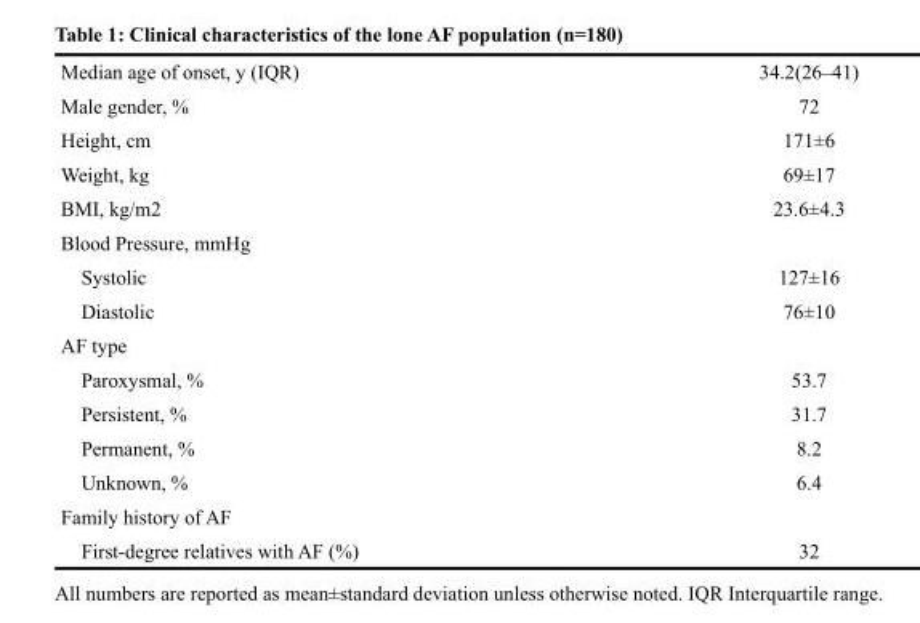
<table><tbody><tr><td>Median age of onset, y (IQR)</td><td>34.2(26–41)</td></tr><tr><td>Male gender, %</td><td>72</td></tr><tr><td>Height, cm</td><td>171±6</td></tr><tr><td>Weight, kg</td><td>69±17</td></tr><tr><td>BMI, kg/m2</td><td>23.6±4.3</td></tr><tr><td colspan="2">Blood Pressure, mmHg</td></tr><tr><td>Systolic</td><td>127±16</td></tr><tr><td>Diastolic</td><td>76±10</td></tr><tr><td colspan="2">AF type</td></tr><tr><td>Paroxysmal, %</td><td>53.7</td></tr><tr><td>Persistent, %</td><td>31.7</td></tr><tr><td>Permanent, %</td><td>8.2</td></tr><tr><td>Unknown, %</td><td>6.4</td></tr><tr><td colspan="2">Family history of AF</td></tr><tr><td>First-degree relatives with AF (%)</td><td>32</td></tr></tbody></table>